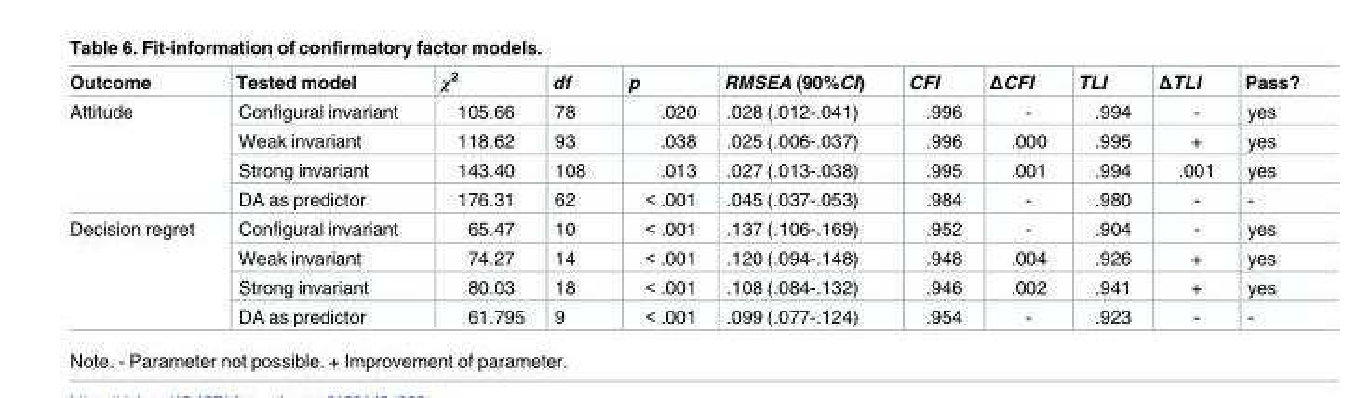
<table><thead><tr><td>Outcome</td><td>Tested model</td><td>χ<sup>2</sup></td><td>df</td><td>p</td><td>RMSEA (90%CI)</td><td>CFI</td><td>ΔCFI</td><td>TLI</td><td>ΔTLI</td><td>Pass?</td></tr></thead><tbody><tr><td rowspan="4">Attitude</td><td>Configural invariant</td><td>105.66</td><td>78</td><td>.020</td><td>.028 (.012-.041)</td><td>.996</td><td>-</td><td>.994</td><td>-</td><td>yes</td></tr><tr><td>Weak invariant</td><td>118.62</td><td>93</td><td>.038</td><td>.025 (.006-.037)</td><td>.996</td><td>.000</td><td>.995</td><td>+</td><td>yes</td></tr><tr><td>Strong invariant</td><td>143.40</td><td>108</td><td>.013</td><td>.027 (.013-.038)</td><td>.995</td><td>.001</td><td>.994</td><td>.001</td><td>yes</td></tr><tr><td>DA as predictor</td><td>176.31</td><td>62</td><td>&lt; .001</td><td>.045 (.037-.053)</td><td>.984</td><td>-</td><td>.980</td><td>-</td><td>-</td></tr><tr><td rowspan="4">Decision regret</td><td>Configural invariant</td><td>65.47</td><td>10</td><td>&lt; .001</td><td>.137 (.106-.169)</td><td>.952</td><td>-</td><td>.904</td><td>-</td><td>yes</td></tr><tr><td>Weak invariant</td><td>74.27</td><td>14</td><td>&lt; .001</td><td>.120 (.094-.148)</td><td>.948</td><td>.004</td><td>.926</td><td>+</td><td>yes</td></tr><tr><td>Strong invariant</td><td>80.03</td><td>18</td><td>&lt; .001</td><td>.108 (.084-.132)</td><td>.946</td><td>.002</td><td>.941</td><td>+</td><td>yes</td></tr><tr><td>DA as predictor</td><td>61.795</td><td>9</td><td>&lt; .001</td><td>.099 (.077-.124)</td><td>.954</td><td>-</td><td>.923</td><td>-</td><td>-</td></tr></tbody></table>